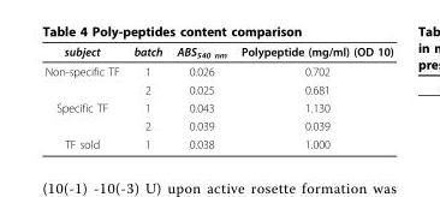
<table><thead><tr><td>subject</td><td>batch</td><td>ABS<sub>540 nm</sub></td><td>Polypeptide (mg/ml) (OD 10)</td></tr></thead><tbody><tr><td rowspan="2">Non-specific TF</td><td>1</td><td>0.026</td><td>0.702</td></tr><tr><td>2</td><td>0.025</td><td>0.681</td></tr><tr><td rowspan="2">Specific TF</td><td>1</td><td>0.043</td><td>1.130</td></tr><tr><td>2</td><td>0.039</td><td>0.039</td></tr><tr><td>TF sold</td><td>1</td><td>0.038</td><td>1.000</td></tr></tbody></table>